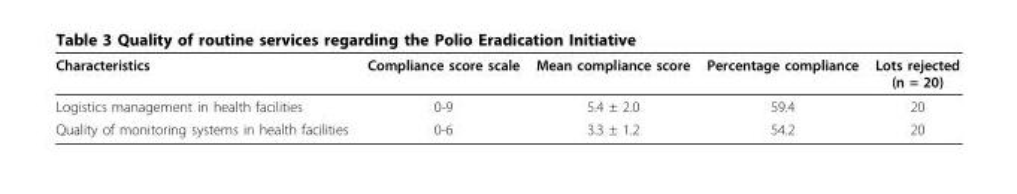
<table><thead><tr><td>Characteristics</td><td>Compliance score scale</td><td>Mean compliance score</td><td>Percentage compliance</td><td>Lots rejected (n = 20)</td></tr></thead><tbody><tr><td>Logistics management in health facilities</td><td>0-9</td><td>5.4 ± 2.0</td><td>59.4</td><td>20</td></tr><tr><td>Quality of monitoring systems in health facilities</td><td>0-6</td><td>3.3 ± 1.2</td><td>54.2</td><td>20</td></tr></tbody></table>